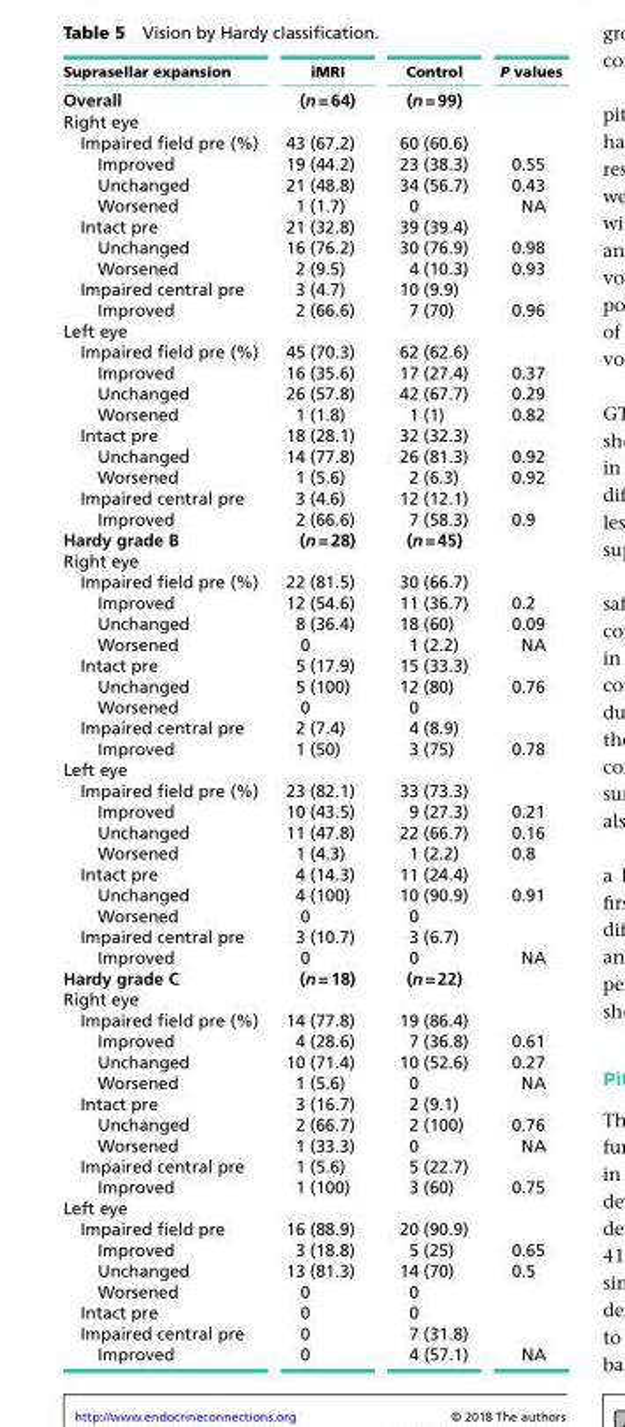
<table><thead><tr><td>Suprasellar expansion</td><td>iMRI</td><td>Control</td><td>P values</td></tr></thead><tbody><tr><td>Overall</td><td>(n = 64)</td><td>(n = 99)</td><td></td></tr><tr><td colspan="4">Right eye</td></tr><tr><td>Impaired field pre (%)</td><td>43 (67.2)</td><td>60 (60.6)</td><td></td></tr><tr><td>Improved</td><td>19 (44.2)</td><td>23 (38.3)</td><td>0.55</td></tr><tr><td>Unchanged</td><td>21 (48.8)</td><td>34 (56.7)</td><td>0.43</td></tr><tr><td>Worsened</td><td>1 (1.7)</td><td>0</td><td>NA</td></tr><tr><td>Intact pre</td><td>21 (32.8)</td><td>39 (39.4)</td><td></td></tr><tr><td>Unchanged</td><td>16 (76.2)</td><td>30 (76.9)</td><td>0.98</td></tr><tr><td>Worsened</td><td>2 (9.5)</td><td>4 (10.3)</td><td>0.93</td></tr><tr><td>Impaired central pre</td><td>3 (4.7)</td><td>10 (9.9)</td><td></td></tr><tr><td>Improved</td><td>2 (66.6)</td><td>7 (70)</td><td>0.96</td></tr><tr><td colspan="4">Left eye</td></tr><tr><td>Impaired field pre (%)</td><td>45 (70.3)</td><td>62 (62.6)</td><td></td></tr><tr><td>Improved</td><td>16 (35.6)</td><td>17 (27.4)</td><td>0.37</td></tr><tr><td>Unchanged</td><td>26 (57.8)</td><td>42 (67.7)</td><td>0.29</td></tr><tr><td>Worsened</td><td>1 (1.8)</td><td>1 (1)</td><td>0.82</td></tr><tr><td>Intact pre</td><td>18 (28.1)</td><td>32 (32.3)</td><td></td></tr><tr><td>Unchanged</td><td>14 (77.8)</td><td>26 (81.3)</td><td>0.92</td></tr><tr><td>Worsened</td><td>1 (5.6)</td><td>2 (6.3)</td><td>0.92</td></tr><tr><td>Impaired central pre</td><td>3 (4.6)</td><td>12 (12.1)</td><td></td></tr><tr><td>Improved</td><td>2 (66.6)</td><td>7 (58.3)</td><td>0.9</td></tr><tr><td>Hardy grade B</td><td>(n = 28)</td><td>(n = 45)</td><td></td></tr><tr><td colspan="4">Right eye</td></tr><tr><td>Impaired field pre (%)</td><td>22 (81.5)</td><td>30 (66.7)</td><td></td></tr><tr><td>Improved</td><td>12 (54.6)</td><td>11 (36.7)</td><td>0.2</td></tr><tr><td>Unchanged</td><td>8 (36.4)</td><td>18 (60)</td><td>0.09</td></tr><tr><td>Worsened</td><td>0</td><td>1 (2.2)</td><td>NA</td></tr><tr><td>Intact pre</td><td>5 (17.9)</td><td>15 (33.3)</td><td></td></tr><tr><td>Unchanged</td><td>5 (100)</td><td>12 (80)</td><td>0.76</td></tr><tr><td>Worsened</td><td>0</td><td>0</td><td></td></tr><tr><td>Impaired central pre</td><td>2 (7.4)</td><td>4 (8.9)</td><td></td></tr><tr><td>Improved</td><td>1 (50)</td><td>3 (75)</td><td>0.78</td></tr><tr><td colspan="4">Left eye</td></tr><tr><td>Impaired field pre (%)</td><td>23 (82.1)</td><td>33 (73.3)</td><td></td></tr><tr><td>Improved</td><td>10 (43.5)</td><td>9 (27.3)</td><td>0.21</td></tr><tr><td>Unchanged</td><td>11 (47.8)</td><td>22 (66.7)</td><td>0.16</td></tr><tr><td>Worsened</td><td>1 (4.3)</td><td>1 (2.2)</td><td>0.8</td></tr><tr><td>Intact pre</td><td>4 (14.3)</td><td>11 (24.4)</td><td></td></tr><tr><td>Unchanged</td><td>4 (100)</td><td>10 (90.9)</td><td>0.91</td></tr><tr><td>Worsened</td><td>0</td><td>0</td><td></td></tr><tr><td>Impaired central pre</td><td>3 (10.7)</td><td>3 (6.7)</td><td></td></tr><tr><td>Improved</td><td>0</td><td>0</td><td>NA</td></tr><tr><td>Hardy grade C</td><td>(n = 18)</td><td>(n = 22)</td><td></td></tr><tr><td colspan="4">Right eye</td></tr><tr><td>Impaired field pre (%)</td><td>14 (77.8)</td><td>19 (86.4)</td><td></td></tr><tr><td>Improved</td><td>4 (28.6)</td><td>7 (36.8)</td><td>0.61</td></tr><tr><td>Unchanged</td><td>10 (71.4)</td><td>10 (52.6)</td><td>0.27</td></tr><tr><td>Worsened</td><td>1 (5.6)</td><td>0</td><td>NA</td></tr><tr><td>Intact pre</td><td>3 (16.7)</td><td>2 (9.1)</td><td></td></tr><tr><td>Unchanged</td><td>2 (66.7)</td><td>2 (100)</td><td>0.76</td></tr><tr><td>Worsened</td><td>1 (33.3)</td><td>0</td><td>NA</td></tr><tr><td>Impaired central pre</td><td>1 (5.6)</td><td>5 (22.7)</td><td></td></tr><tr><td>Improved</td><td>1 (100)</td><td>3 (60)</td><td>0.75</td></tr><tr><td colspan="4">Left eye</td></tr><tr><td>Impaired field pre</td><td>16 (88.9)</td><td>20 (90.9)</td><td></td></tr><tr><td>Improved</td><td>3 (18.8)</td><td>5 (25)</td><td>0.65</td></tr><tr><td>Unchanged</td><td>13 (81.3)</td><td>14 (70)</td><td>0.5</td></tr><tr><td>Worsened</td><td>0</td><td>0</td><td></td></tr><tr><td>Intact pre</td><td>0</td><td>0</td><td></td></tr><tr><td>Impaired central pre</td><td>0</td><td>7 (31.8)</td><td></td></tr><tr><td>Improved</td><td>0</td><td>4 (57.1)</td><td>NA</td></tr></tbody></table>